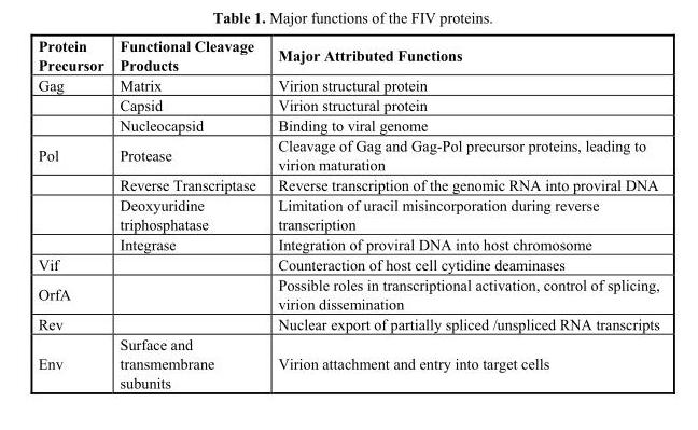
<table><thead><tr><td>Protein Precursor</td><td>Functional Cleavage Products</td><td>Major Attributed Functions</td></tr></thead><tbody><tr><td rowspan="3">Gag</td><td>Matrix</td><td>Virion structural protein</td></tr><tr><td>Capsid</td><td>Virion structural protein</td></tr><tr><td>Nucleocapsid</td><td>Binding to viral genome</td></tr><tr><td rowspan="4">Pol</td><td>Protease</td><td>Cleavage of Gag and Gag-Pol precursor proteins, leading to virion maturation</td></tr><tr><td>Reverse Transcriptase</td><td>Reverse transcription of the genomic RNA into proviral DNA</td></tr><tr><td>Deoxyuridine triphosphatase</td><td>Limitation of uracil misincorporation during reverse transcription</td></tr><tr><td>Integrase</td><td>Integration of proviral DNA into host chromosome</td></tr><tr><td>Vif</td><td></td><td>Counteraction of host cell cytidine deaminases</td></tr><tr><td>OrfA</td><td></td><td>Possible roles in transcriptional activation, control of splicing, virion dissemination</td></tr><tr><td>Rev</td><td></td><td>Nuclear export of partially spliced /unspliced RNA transcripts</td></tr><tr><td>Env</td><td>Surface and transmembrane subunits</td><td>Virion attachment and entry into target cells</td></tr></tbody></table>